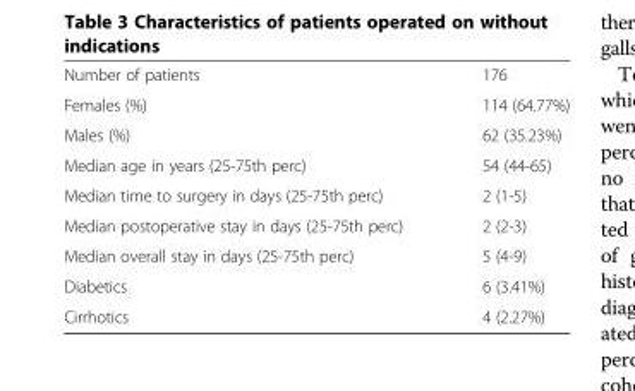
<table><tbody><tr><td>Number of patients</td><td>176</td></tr><tr><td>Females (%)</td><td>114 (64.77%)</td></tr><tr><td>Males (%)</td><td>62 (35.23%)</td></tr><tr><td>Median age in years (25-75th perc)</td><td>54 (44-65)</td></tr><tr><td>Median time to surgery in days (25-75th perc)</td><td>2 (1-5)</td></tr><tr><td>Median postoperative stay in days (25-75th perc)</td><td>2 (2-3)</td></tr><tr><td>Median overall stay in days (25-75th perc)</td><td>5 (4-9)</td></tr><tr><td>Diabetics</td><td>6 (3.41%)</td></tr><tr><td>Cirrhotics</td><td>4 (2.27%)</td></tr></tbody></table>